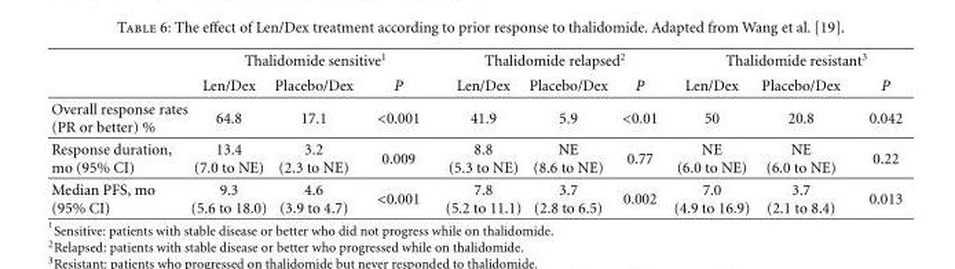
<table><thead><tr><td rowspan="2"></td><td colspan="3">Thalidomide sensitive<sup>1</sup></td><td colspan="3">Thalidomide relapsed<sup>2</sup></td><td colspan="3">Thalidomide resistant<sup>3</sup></td></tr><tr><td>Len/Dex</td><td>Placebo/Dex</td><td>P</td><td>Len/Dex</td><td>Placebo/Dex</td><td>P</td><td>Len/Dex</td><td>Placebo/Dex</td><td>P</td></tr></thead><tbody><tr><td>Overall response rates (PR or better) %</td><td>64.8</td><td>17.1</td><td>&lt;0.001</td><td>41.9</td><td>5.9</td><td>&lt;0.01</td><td>50</td><td>20.8</td><td>0.042</td></tr><tr><td>Response duration, mo (95% CI)</td><td>13.4 (7.0 to NE)</td><td>3.2 (2.3 to NE)</td><td>0.009</td><td>8.8 (5.3 to NE)</td><td>NE (8.6 to NE)</td><td>0.77</td><td>NE (6.0 to NE)</td><td>NE (6.0 to NE)</td><td>0.22</td></tr><tr><td>Median PFS, mo (95% CI)</td><td>9.3 (5.6 to 18.0)</td><td>4.6 (3.9 to 4.7)</td><td>&lt;0.001</td><td>7.8 (5.2 to 11.1)</td><td>3.7 (2.8 to 6.5)</td><td>0.002</td><td>7.0 (4.9 to 16.9)</td><td>3.7 (2.1 to 8.4)</td><td>0.013</td></tr></tbody></table>